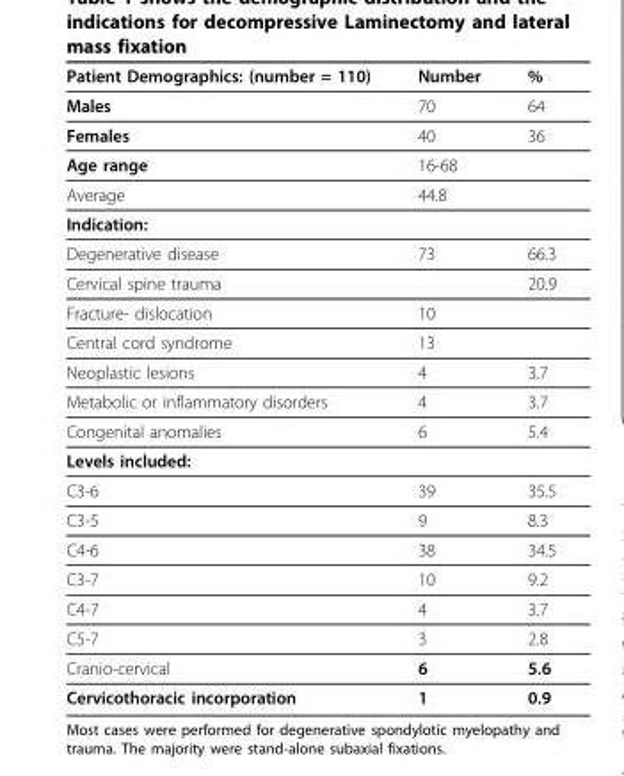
<table><thead><tr><td>Patient Demographics: (number = 110)</td><td>Number</td><td>%</td></tr></thead><tbody><tr><td>Males</td><td>70</td><td>64</td></tr><tr><td>Females</td><td>40</td><td>36</td></tr><tr><td>Age range</td><td>16-68</td><td></td></tr><tr><td>Average</td><td>44.8</td><td></td></tr><tr><td colspan="3">Indication:</td></tr><tr><td>Degenerative disease</td><td>73</td><td>66.3</td></tr><tr><td>Cervical spine trauma</td><td></td><td>20.9</td></tr><tr><td>Fracture- dislocation</td><td>10</td><td></td></tr><tr><td>Central cord syndrome</td><td>13</td><td></td></tr><tr><td>Neoplastic lesions</td><td>4</td><td>3.7</td></tr><tr><td>Metabolic or inflammatory disorders</td><td>4</td><td>3.7</td></tr><tr><td>Congenital anomalies</td><td>6</td><td>5.4</td></tr><tr><td colspan="3">Levels included:</td></tr><tr><td>C3-6</td><td>39</td><td>35.5</td></tr><tr><td>C3-5</td><td>9</td><td>8.3</td></tr><tr><td>C4-6</td><td>38</td><td>34.5</td></tr><tr><td>C3-7</td><td>10</td><td>9.2</td></tr><tr><td>C4-7</td><td>4</td><td>3.7</td></tr><tr><td>C5-7</td><td>3</td><td>2.8</td></tr><tr><td>Cranio-cervical</td><td>6</td><td>5.6</td></tr><tr><td>Cervicothoracic incorporation</td><td>1</td><td>0.9</td></tr></tbody></table>